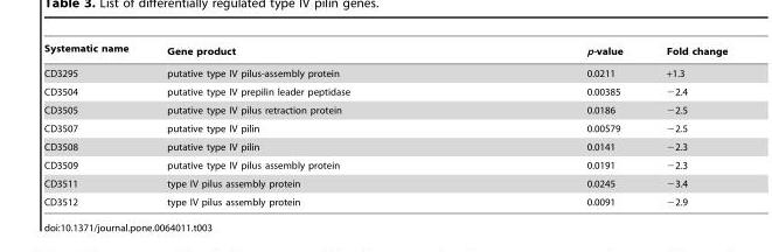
<table><thead><tr><td>Systematic name</td><td>Gene product</td><td>p-value</td><td>Fold change</td></tr></thead><tbody><tr><td>CD3295</td><td>putative type IV pilus-assembly protein</td><td>0.0211</td><td>+1.3</td></tr><tr><td>CD3504</td><td>putative type IV prepilin leader peptidase</td><td>0.00385</td><td>−2.4</td></tr><tr><td>CD3505</td><td>putative type IV pilus retraction protein</td><td>0.0186</td><td>−2.5</td></tr><tr><td>CD3507</td><td>putative type IV pilin</td><td>0.00579</td><td>−2.5</td></tr><tr><td>CD3508</td><td>putative type IV pilin</td><td>0.0141</td><td>−2.3</td></tr><tr><td>CD3509</td><td>putative type IV pilus assembly protein</td><td>0.0191</td><td>−2.3</td></tr><tr><td>CD3511</td><td>type IV pilus assembly protein</td><td>0.0245</td><td>−3.4</td></tr><tr><td>CD3512</td><td>type IV pilus assembly protein</td><td>0.0091</td><td>−2.9</td></tr></tbody></table>